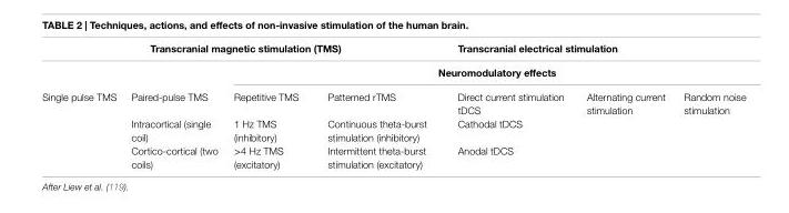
<table><thead><tr><td colspan="4">Transcranial magnetic stimulation (TMS)</td><td colspan="3">Transcranial electrical stimulation</td></tr><tr><td rowspan="2">Single pulse TMS</td><td rowspan="2">Paired-pulse TMS</td><td colspan="5">Neuromodulatory effects</td></tr><tr><td>Repetitive TMS</td><td>Patterned rTMS</td><td>Direct current stimulation tDCS</td><td>Alternating current stimulation</td><td>Random noise stimulation</td></tr></thead><tbody><tr><td></td><td>Intracortical (single coil)</td><td>1 Hz TMS (inhibitory)</td><td>Continuous theta-burst stimulation (inhibitory)</td><td>Cathodal tDCS</td><td></td><td></td></tr><tr><td></td><td>Cortico-cortical (two coils)</td><td>&gt;4 Hz TMS (excitatory)</td><td>Intermittent theta-burst stimulation (excitatory)</td><td>Anodal tDCS</td><td></td><td></td></tr></tbody></table>